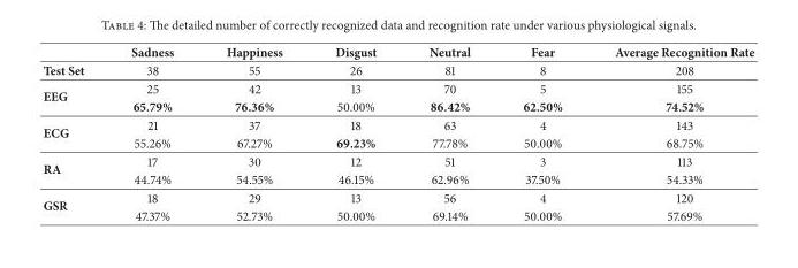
<table><thead><tr><td></td><td>Sadness</td><td>Happiness</td><td>Disgust</td><td>Neutral</td><td>Fear</td><td>Average Recognition Rate</td></tr></thead><tbody><tr><td>Test Set</td><td>38</td><td>55</td><td>26</td><td>81</td><td>8</td><td>208</td></tr><tr><td rowspan="2">EEG</td><td>25</td><td>42</td><td>13</td><td>70</td><td>5</td><td>155</td></tr><tr><td>65.79%</td><td>76.36%</td><td>50.00%</td><td>86.42%</td><td>62.50%</td><td>74.52%</td></tr><tr><td rowspan="2">ECG</td><td>21</td><td>37</td><td>18</td><td>63</td><td>4</td><td>143</td></tr><tr><td>55.26%</td><td>67.27%</td><td>69.23%</td><td>77.78%</td><td>50.00%</td><td>68.75%</td></tr><tr><td rowspan="2">RA</td><td>17</td><td>30</td><td>12</td><td>51</td><td>3</td><td>113</td></tr><tr><td>44.74%</td><td>54.55%</td><td>46.15%</td><td>62.96%</td><td>37.50%</td><td>54.33%</td></tr><tr><td rowspan="2">GSR</td><td>18</td><td>29</td><td>13</td><td>56</td><td>4</td><td>120</td></tr><tr><td>47.37%</td><td>52.73%</td><td>50.00%</td><td>69.14%</td><td>50.00%</td><td>57.69%</td></tr></tbody></table>